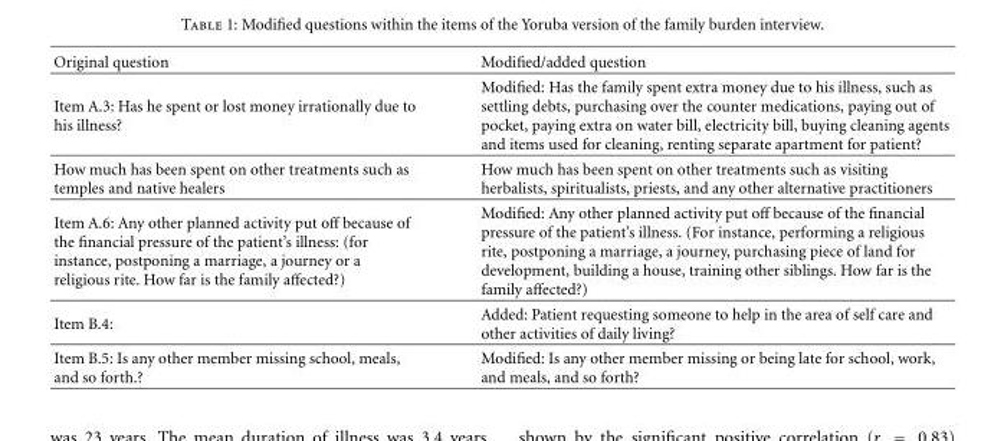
<table><thead><tr><td>Original question</td><td>Modified/added question</td></tr></thead><tbody><tr><td>Item A.3: Has he spent or lost money irrationally due to his illness?</td><td>Modified: Has the family spent extra money due to his illness, such as settling debts, purchasing over the counter medications, paying out of pocket, paying extra on water bill, electricity bill, buying cleaning agents and items used for cleaning, renting separate apartment for patient?</td></tr><tr><td>How much has been spent on other treatments such as temples and native healers</td><td>How much has been spent on other treatments such as visiting herbalists, spiritualists, priests, and any other alternative practitioners</td></tr><tr><td>Item A.6: Any other planned activity put off because of the financial pressure of the patient’s illness: (for instance, postponing a marriage, a journey or a religious rite. How far is the family affected?)</td><td>Modified: Any other planned activity put off because of the financial pressure of the patient’s illness. (For instance, performing a religious rite, postponing a marriage, a journey, purchasing piece of land for development, building a house, training other siblings. How far is the family affected?)</td></tr><tr><td>Item B.4:</td><td>Added: Patient requesting someone to help in the area of self care and other activities of daily living?</td></tr><tr><td>Item B.5: Is any other member missing school, meals, and so forth.?</td><td>Modified: Is any other member missing or being late for school, work, and meals, and so forth?</td></tr></tbody></table>